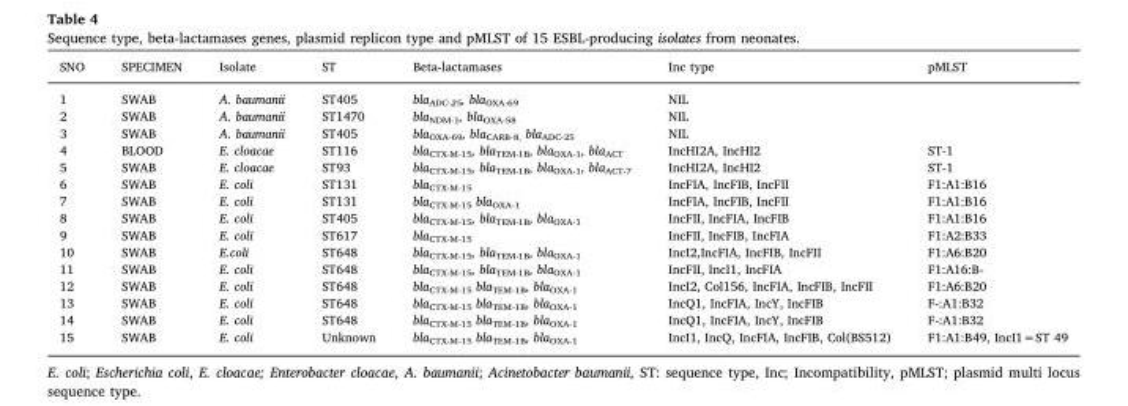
<table><thead><tr><td>SNO</td><td>SPECIMEN</td><td>Isolate</td><td>ST</td><td>Beta-lactamases</td><td>Inc type</td><td>pMLST</td></tr></thead><tbody><tr><td>1</td><td>SWAB</td><td>A. baumanii</td><td>ST405</td><td>bla<sub>ADC-25</sub>, bla<sub>OXA-69</sub></td><td>NIL</td><td></td></tr><tr><td>2</td><td>SWAB</td><td>A. baumanii</td><td>ST1470</td><td>bla<sub>NDM-1</sub>, bla<sub>OXA-58</sub></td><td>NIL</td><td></td></tr><tr><td>3</td><td>SWAB</td><td>A. baumanii</td><td>ST405</td><td>bla<sub>OXA-69</sub>, bla<sub>CARB-8,</sub> bla<sub>ADC-25</sub></td><td>NIL</td><td></td></tr><tr><td>4</td><td>BLOOD</td><td>E. cloacae</td><td>ST116</td><td>bla<sub>CTX-M-15</sub>, bla<sub>TEM-1B</sub>, bla<sub>OXA-1</sub>, bla<sub>ACT</sub></td><td>IncHI2A, IncHI2</td><td>ST-1</td></tr><tr><td>5</td><td>SWAB</td><td>E. cloacae</td><td>ST93</td><td>bla<sub>CTX-M-15</sub>, bla<sub>TEM-1B</sub>, bla<sub>OXA-1</sub>, bla<sub>ACT-7</sub></td><td>IncHI2A, IncHI2</td><td>ST-1</td></tr><tr><td>6</td><td>SWAB</td><td>E. coli</td><td>ST131</td><td>bla<sub>CTX-M-15</sub></td><td>IncFIA, IncFIB, IncFII</td><td>F1:A1:B16</td></tr><tr><td>7</td><td>SWAB</td><td>E. coli</td><td>ST131</td><td>bla<sub>CTX-M-15</sub> bla<sub>OXA-1</sub></td><td>IncFIA, IncFIB, IncFII</td><td>F1:A1:B16</td></tr><tr><td>8</td><td>SWAB</td><td>E. coli</td><td>ST405</td><td>bla<sub>CTX-M-15</sub>, bla<sub>TEM-1B</sub>, bla<sub>OXA-1</sub></td><td>IncFII, IncFIA, IncFIB</td><td>F1:A1:B16</td></tr><tr><td>9</td><td>SWAB</td><td>E. coli</td><td>ST617</td><td>bla<sub>CTX-M-15</sub></td><td>IncFII, IncFIB, IncFIA</td><td>F1:A2:B33</td></tr><tr><td>10</td><td>SWAB</td><td>E.coli</td><td>ST648</td><td>bla<sub>CTX-M-15</sub>, bla<sub>TEM-1B</sub>, bla<sub>OXA-1</sub></td><td>IncI2,IncFIA, IncFIB, IncFII</td><td>F1:A6:B20</td></tr><tr><td>11</td><td>SWAB</td><td>E. coli</td><td>ST648</td><td>bla<sub>CTX-M-15</sub>, bla<sub>TEM-1B</sub>, bla<sub>OXA-1</sub></td><td>IncFII, IncI1, IncFIA</td><td>F1:A16:B-</td></tr><tr><td>12</td><td>SWAB</td><td>E. coli</td><td>ST648</td><td>bla<sub>CTX-M-15</sub> bla<sub>TEM-1B</sub>, bla<sub>OXA-1</sub></td><td>IncI2, Col156, IncFIA, IncFIB, IncFII</td><td>F1:A6:B20</td></tr><tr><td>13</td><td>SWAB</td><td>E. coli</td><td>ST648</td><td>bla<sub>CTX-M-15</sub> bla<sub>TEM-1B</sub>, bla<sub>OXA-1</sub></td><td>IncQ1, IncFIA, IncY, IncFIB</td><td>F-:A1:B32</td></tr><tr><td>14</td><td>SWAB</td><td>E. coli</td><td>ST648</td><td>bla<sub>CTX-M-15</sub> bla<sub>TEM-1B</sub>, bla<sub>OXA-1</sub></td><td>IncQ1, IncFIA, IncY, IncFIB</td><td>F-:A1:B32</td></tr><tr><td>15</td><td>SWAB</td><td>E. coli</td><td>Unknown</td><td>bla<sub>CTX-M-15</sub> bla<sub>TEM-1B</sub>, bla<sub>OXA-1</sub></td><td>IncI1, IncQ, IncFIA, IncFIB, Col(BS512)</td><td>F1:A1:B49, IncI1=ST 49</td></tr></tbody></table>